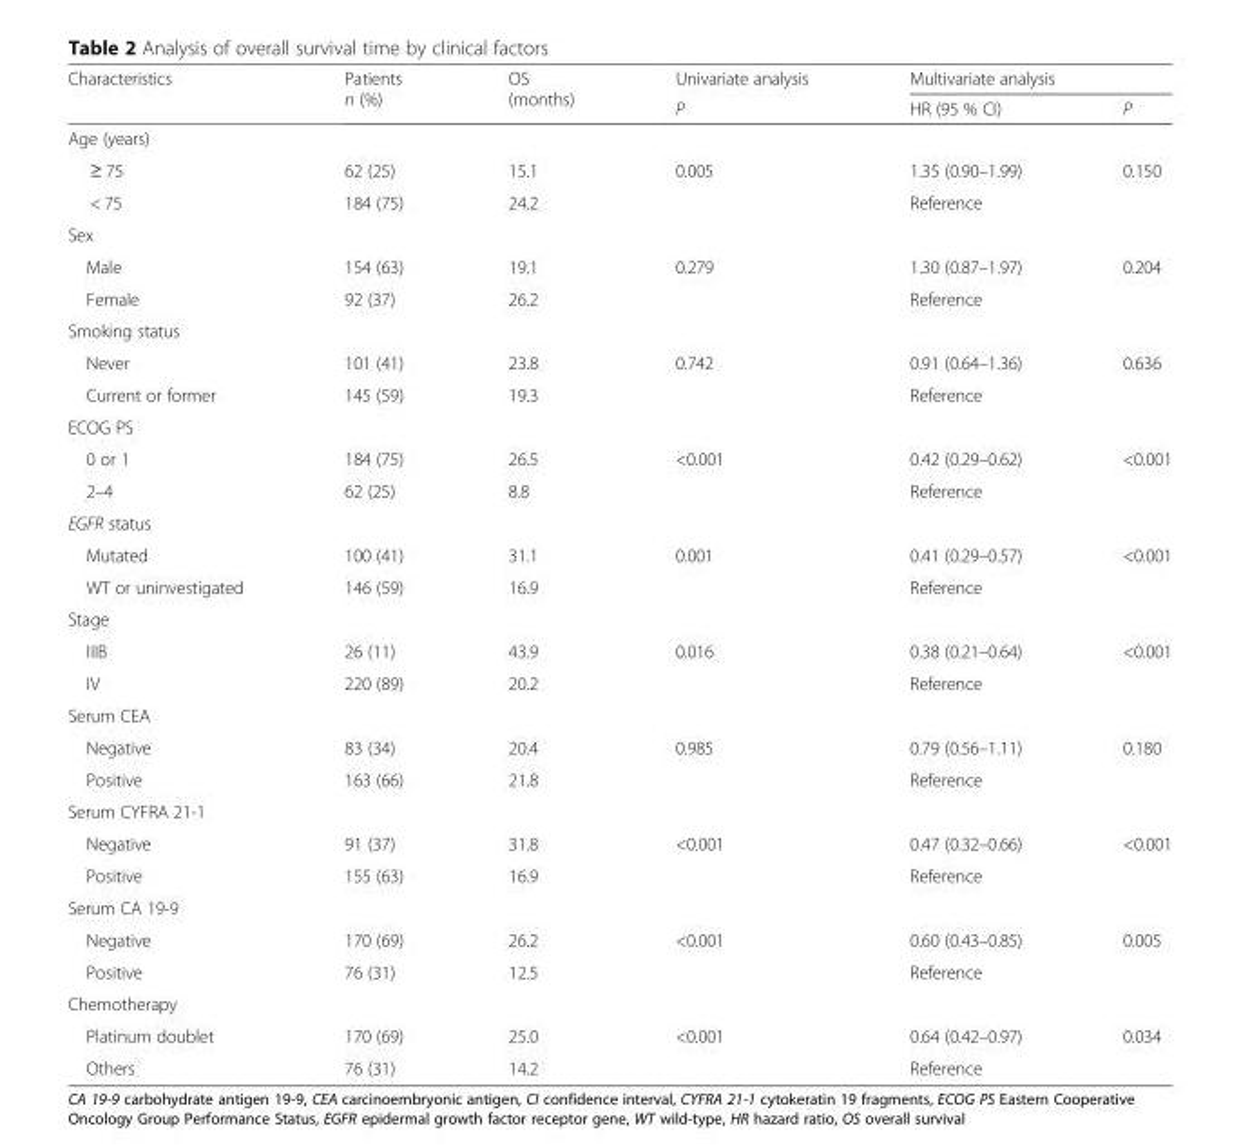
<table><thead><tr><td rowspan="2">Characteristics</td><td rowspan="2">Patients n (%)</td><td rowspan="2">OS (months)</td><td rowspan="2">Univariate analysis P</td><td colspan="2">Multivariate analysis</td></tr><tr><td>HR (95 % CI)</td><td>P</td></tr></thead><tbody><tr><td colspan="6">Age (years)</td></tr><tr><td>≥ 75</td><td>62 (25)</td><td>15.1</td><td rowspan="2">0.005</td><td>1.35 (0.90–1.99)</td><td rowspan="2">0.150</td></tr><tr><td>&lt; 75</td><td>184 (75)</td><td>24.2</td><td>Reference</td></tr><tr><td colspan="6">Sex</td></tr><tr><td>Male</td><td>154 (63)</td><td>19.1</td><td rowspan="2">0.279</td><td>1.30 (0.87–1.97)</td><td rowspan="2">0.204</td></tr><tr><td>Female</td><td>92 (37)</td><td>26.2</td><td>Reference</td></tr><tr><td colspan="6">Smoking status</td></tr><tr><td>Never</td><td>101 (41)</td><td>23.8</td><td rowspan="2">0.742</td><td>0.91 (0.64–1.36)</td><td rowspan="2">0.636</td></tr><tr><td>Current or former</td><td>145 (59)</td><td>19.3</td><td>Reference</td></tr><tr><td colspan="6">ECOG PS</td></tr><tr><td>0 or 1</td><td>184 (75)</td><td>26.5</td><td rowspan="2">&lt;0.001</td><td>0.42 (0.29–0.62)</td><td rowspan="2">&lt;0.001</td></tr><tr><td>2–4</td><td>62 (25)</td><td>8.8</td><td>Reference</td></tr><tr><td colspan="6">EGFR status</td></tr><tr><td>Mutated</td><td>100 (41)</td><td>31.1</td><td rowspan="2">0.001</td><td>0.41 (0.29–0.57)</td><td rowspan="2">&lt;0.001</td></tr><tr><td>WT or uninvestigated</td><td>146 (59)</td><td>16.9</td><td>Reference</td></tr><tr><td colspan="6">Stage</td></tr><tr><td>IIIB</td><td>26 (11)</td><td>43.9</td><td rowspan="2">0.016</td><td>0.38 (0.21–0.64)</td><td rowspan="2">&lt;0.001</td></tr><tr><td>IV</td><td>220 (89)</td><td>20.2</td><td>Reference</td></tr><tr><td colspan="6">Serum CEA</td></tr><tr><td>Negative</td><td>83 (34)</td><td>20.4</td><td rowspan="2">0.985</td><td>0.79 (0.56–1.11)</td><td rowspan="2">0.180</td></tr><tr><td>Positive</td><td>163 (66)</td><td>21.8</td><td>Reference</td></tr><tr><td colspan="6">Serum CYFRA 21-1</td></tr><tr><td>Negative</td><td>91 (37)</td><td>31.8</td><td rowspan="2">&lt;0.001</td><td>0.47 (0.32–0.66)</td><td rowspan="2">&lt;0.001</td></tr><tr><td>Positive</td><td>155 (63)</td><td>16.9</td><td>Reference</td></tr><tr><td colspan="6">Serum CA 19-9</td></tr><tr><td>Negative</td><td>170 (69)</td><td>26.2</td><td rowspan="2">&lt;0.001</td><td>0.60 (0.43–0.85)</td><td rowspan="2">0.005</td></tr><tr><td>Positive</td><td>76 (31)</td><td>12.5</td><td>Reference</td></tr><tr><td colspan="6">Chemotherapy</td></tr><tr><td>Platinum doublet</td><td>170 (69)</td><td>25.0</td><td rowspan="2">&lt;0.001</td><td>0.64 (0.42–0.97)</td><td rowspan="2">0.034</td></tr><tr><td>Others</td><td>76 (31)</td><td>14.2</td><td>Reference</td></tr></tbody></table>